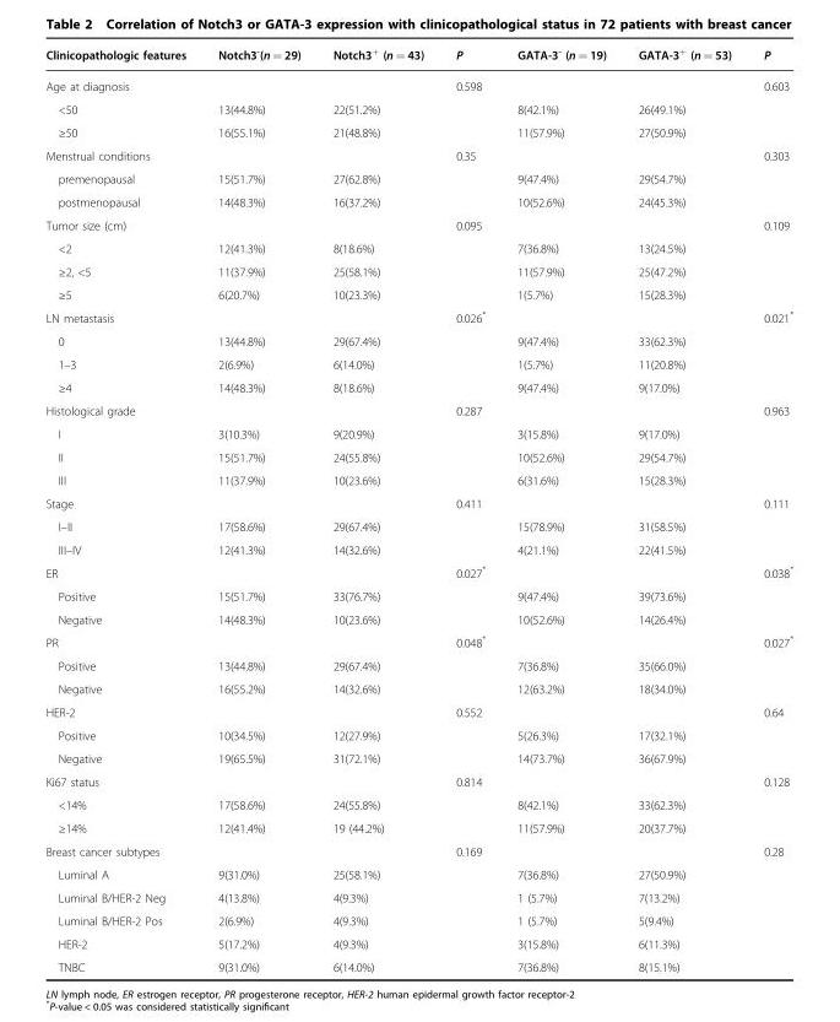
<table><thead><tr><td>Clinicopathologic features</td><td>Notch3<sup>-</sup>(n = 29)</td><td>Notch3<sup>+</sup> (n = 43)</td><td>P</td><td>GATA-3<sup>-</sup> (n = 19)</td><td>GATA-3<sup>+</sup> (n = 53)</td><td>P</td></tr></thead><tbody><tr><td>Age at diagnosis</td><td></td><td></td><td>0.598</td><td></td><td></td><td>0.603</td></tr><tr><td>&lt;50</td><td>13(44.8%)</td><td>22(51.2%)</td><td></td><td>8(42.1%)</td><td>26(49.1%)</td><td></td></tr><tr><td>≥50</td><td>16(55.1%)</td><td>21(48.8%)</td><td></td><td>11(57.9%)</td><td>27(50.9%)</td><td></td></tr><tr><td>Menstrual conditions</td><td></td><td></td><td>0.35</td><td></td><td></td><td>0.303</td></tr><tr><td>premenopausal</td><td>15(51.7%)</td><td>27(62.8%)</td><td></td><td>9(47.4%)</td><td>29(54.7%)</td><td></td></tr><tr><td>postmenopausal</td><td>14(48.3%)</td><td>16(37.2%)</td><td></td><td>10(52.6%)</td><td>24(45.3%)</td><td></td></tr><tr><td>Tumor size (cm)</td><td></td><td></td><td>0.095</td><td></td><td></td><td>0.109</td></tr><tr><td>&lt;2</td><td>12(41.3%)</td><td>8(18.6%)</td><td></td><td>7(36.8%)</td><td>13(24.5%)</td><td></td></tr><tr><td>≥2, &lt;5</td><td>11(37.9%)</td><td>25(58.1%)</td><td></td><td>11(57.9%)</td><td>25(47.2%)</td><td></td></tr><tr><td>≥5</td><td>6(20.7%)</td><td>10(23.3%)</td><td></td><td>1(5.7%)</td><td>15(28.3%)</td><td></td></tr><tr><td>LN metastasis</td><td></td><td></td><td>0.026*</td><td></td><td></td><td>0.021*</td></tr><tr><td>0</td><td>13(44.8%)</td><td>29(67.4%)</td><td></td><td>9(47.4%)</td><td>33(62.3%)</td><td></td></tr><tr><td>1–3</td><td>2(6.9%)</td><td>6(14.0%)</td><td></td><td>1(5.7%)</td><td>11(20.8%)</td><td></td></tr><tr><td>≥4</td><td>14(48.3%)</td><td>8(18.6%)</td><td></td><td>9(47.4%)</td><td>9(17.0%)</td><td></td></tr><tr><td>Histological grade</td><td></td><td></td><td>0.287</td><td></td><td></td><td>0.963</td></tr><tr><td>I</td><td>3(10.3%)</td><td>9(20.9%)</td><td></td><td>3(15.8%)</td><td>9(17.0%)</td><td></td></tr><tr><td>II</td><td>15(51.7%)</td><td>24(55.8%)</td><td></td><td>10(52.6%)</td><td>29(54.7%)</td><td></td></tr><tr><td>III</td><td>11(37.9%)</td><td>10(23.6%)</td><td></td><td>6(31.6%)</td><td>15(28.3%)</td><td></td></tr><tr><td>Stage</td><td></td><td></td><td>0.411</td><td></td><td></td><td>0.111</td></tr><tr><td>I–II</td><td>17(58.6%)</td><td>29(67.4%)</td><td></td><td>15(78.9%)</td><td>31(58.5%)</td><td></td></tr><tr><td>III–IV</td><td>12(41.3%)</td><td>14(32.6%)</td><td></td><td>4(21.1%)</td><td>22(41.5%)</td><td></td></tr><tr><td>ER</td><td></td><td></td><td>0.027*</td><td></td><td></td><td>0.038*</td></tr><tr><td>Positive</td><td>15(51.7%)</td><td>33(76.7%)</td><td></td><td>9(47.4%)</td><td>39(73.6%)</td><td></td></tr><tr><td>Negative</td><td>14(48.3%)</td><td>10(23.6%)</td><td></td><td>10(52.6%)</td><td>14(26.4%)</td><td></td></tr><tr><td>PR</td><td></td><td></td><td>0.048*</td><td></td><td></td><td>0.027*</td></tr><tr><td>Positive</td><td>13(44.8%)</td><td>29(67.4%)</td><td></td><td>7(36.8%)</td><td>35(66.0%)</td><td></td></tr><tr><td>Negative</td><td>16(55.2%)</td><td>14(32.6%)</td><td></td><td>12(63.2%)</td><td>18(34.0%)</td><td></td></tr><tr><td>HER-2</td><td></td><td></td><td>0.552</td><td></td><td></td><td>0.64</td></tr><tr><td>Positive</td><td>10(34.5%)</td><td>12(27.9%)</td><td></td><td>5(26.3%)</td><td>17(32.1%)</td><td></td></tr><tr><td>Negative</td><td>19(65.5%)</td><td>31(72.1%)</td><td></td><td>14(73.7%)</td><td>36(67.9%)</td><td></td></tr><tr><td>Ki67 status</td><td></td><td></td><td>0.814</td><td></td><td></td><td>0.128</td></tr><tr><td>&lt;14%</td><td>17(58.6%)</td><td>24(55.8%)</td><td></td><td>8(42.1%)</td><td>33(62.3%)</td><td></td></tr><tr><td>≥14%</td><td>12(41.4%)</td><td>19 (44.2%)</td><td></td><td>11(57.9%)</td><td>20(37.7%)</td><td></td></tr><tr><td>Breast cancer subtypes</td><td></td><td></td><td>0.169</td><td></td><td></td><td>0.28</td></tr><tr><td>Luminal A</td><td>9(31.0%)</td><td>25(58.1%)</td><td></td><td>7(36.8%)</td><td>27(50.9%)</td><td></td></tr><tr><td>Luminal B/HER-2 Neg</td><td>4(13.8%)</td><td>4(9.3%)</td><td></td><td>1 (5.7%)</td><td>7(13.2%)</td><td></td></tr><tr><td>Luminal B/HER-2 Pos</td><td>2(6.9%)</td><td>4(9.3%)</td><td></td><td>1 (5.7%)</td><td>5(9.4%)</td><td></td></tr><tr><td>HER-2</td><td>5(17.2%)</td><td>4(9.3%)</td><td></td><td>3(15.8%)</td><td>6(11.3%)</td><td></td></tr><tr><td>TNBC</td><td>9(31.0%)</td><td>6(14.0%)</td><td></td><td>7(36.8%)</td><td>8(15.1%)</td><td></td></tr></tbody></table>